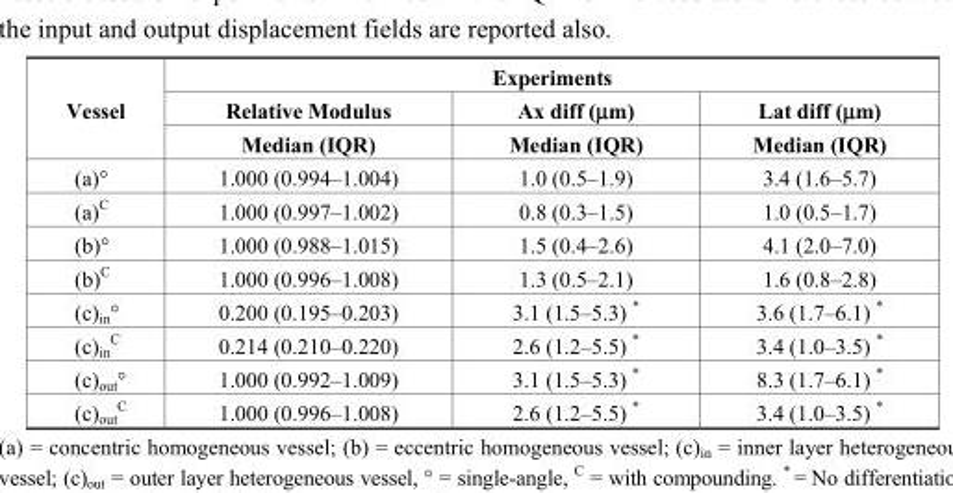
<table><thead><tr><td rowspan="3">Vessel</td><td colspan="3">Experiments</td></tr><tr><td rowspan="2">Relative Modulus Median (IQR)</td><td rowspan="2">Ax diff (μm) Median (IQR)</td><td rowspan="2">Lat diff (μm) Median (IQR)</td></tr><tr></tr></thead><tbody><tr><td>(a)°</td><td>1.000 (0.994–1.004)</td><td>1.0 (0.5–1.9)</td><td>3.4 (1.6–5.7)</td></tr><tr><td>(a)<sup>C</sup></td><td>1.000 (0.997–1.002)</td><td>0.8 (0.3–1.5)</td><td>1.0 (0.5–1.7)</td></tr><tr><td>(b)°</td><td>1.000 (0.988–1.015)</td><td>1.5 (0.4–2.6)</td><td>4.1 (2.0–7.0)</td></tr><tr><td>(b)<sup>C</sup></td><td>1.000 (0.996–1.008)</td><td>1.3 (0.5–2.1)</td><td>1.6 (0.8–2.8)</td></tr><tr><td>(c)<sub>in</sub>°</td><td>0.200 (0.195–0.203)</td><td>3.1 (1.5–5.3) *</td><td>3.6 (1.7–6.1) *</td></tr><tr><td>(c)<sub>in</sub> <sup>C</sup></td><td>0.214 (0.210–0.220)</td><td>2.6 (1.2–5.5) *</td><td>3.4 (1.0–3.5) *</td></tr><tr><td>(c)<sub>out</sub>°</td><td>1.000 (0.992–1.009)</td><td>3.1 (1.5–5.3) *</td><td>8.3 (1.7–6.1) *</td></tr><tr><td>(c)<sub>out</sub> <sup>C</sup></td><td>1.000 (0.996–1.008)</td><td>2.6 (1.2–5.5) *</td><td>3.4 (1.0–3.5) *</td></tr></tbody></table>